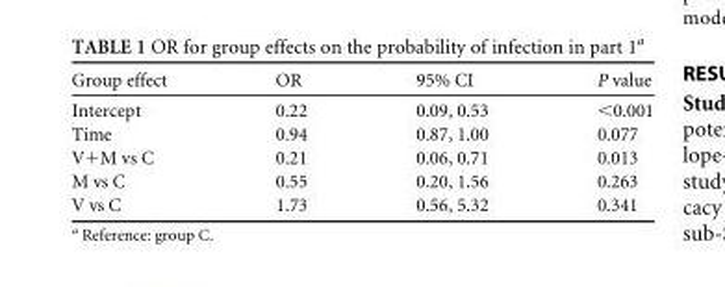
<table><thead><tr><td>Group effect</td><td>OR</td><td>95% CI</td><td>P value</td></tr></thead><tbody><tr><td>Intercept</td><td>0.22</td><td>0.09, 0.53</td><td>&lt;0.001</td></tr><tr><td>Time</td><td>0.94</td><td>0.87, 1.00</td><td>0.077</td></tr><tr><td>V+M vs C</td><td>0.21</td><td>0.06, 0.71</td><td>0.013</td></tr><tr><td>M vs C</td><td>0.55</td><td>0.20, 1.56</td><td>0.263</td></tr><tr><td>V vs C</td><td>1.73</td><td>0.56, 5.32</td><td>0.341</td></tr></tbody></table>